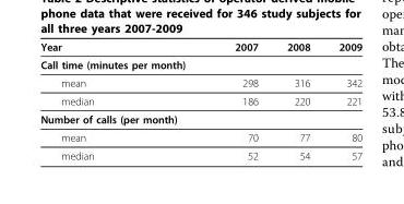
<table><thead><tr><td>Year</td><td>2007</td><td>2008</td><td>2009</td></tr></thead><tbody><tr><td colspan="4">Call time (minutes per month)</td></tr><tr><td>mean</td><td>298</td><td>316</td><td>342</td></tr><tr><td>median</td><td>186</td><td>220</td><td>221</td></tr><tr><td colspan="4">Number of calls (per month)</td></tr><tr><td>mean</td><td>70</td><td>77</td><td>80</td></tr><tr><td>median</td><td>52</td><td>54</td><td>57</td></tr></tbody></table>